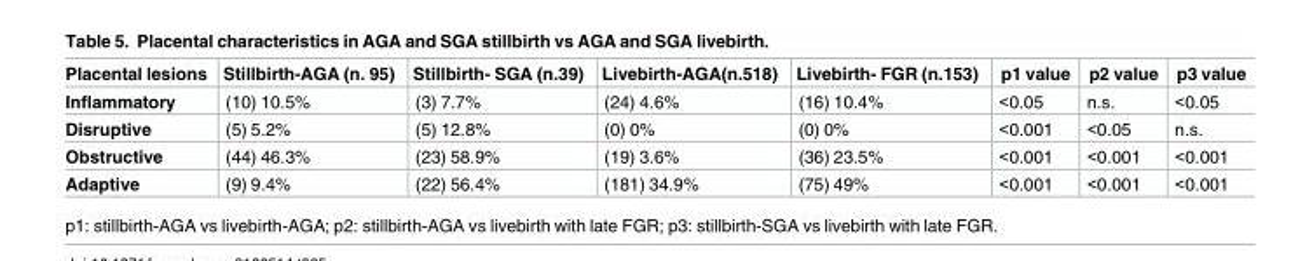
<table><thead><tr><td>Placental lesions</td><td>Stillbirth-AGA (n. 95)</td><td>Stillbirth- SGA (n.39)</td><td>Livebirth-AGA(n.518)</td><td>Livebirth- FGR (n.153)</td><td>p1 value</td><td>p2 value</td><td>p3 value</td></tr></thead><tbody><tr><td>Inflammatory</td><td>(10) 10.5%</td><td>(3) 7.7%</td><td>(24) 4.6%</td><td>(16) 10.4%</td><td>&lt;0.05</td><td>n.s.</td><td>&lt;0.05</td></tr><tr><td>Disruptive</td><td>(5) 5.2%</td><td>(5) 12.8%</td><td>(0) 0%</td><td>(0) 0%</td><td>&lt;0.001</td><td>&lt;0.05</td><td>n.s.</td></tr><tr><td>Obstructive</td><td>(44) 46.3%</td><td>(23) 58.9%</td><td>(19) 3.6%</td><td>(36) 23.5%</td><td>&lt;0.001</td><td>&lt;0.001</td><td>&lt;0.001</td></tr><tr><td>Adaptive</td><td>(9) 9.4%</td><td>(22) 56.4%</td><td>(181) 34.9%</td><td>(75) 49%</td><td>&lt;0.001</td><td>&lt;0.001</td><td>&lt;0.001</td></tr></tbody></table>